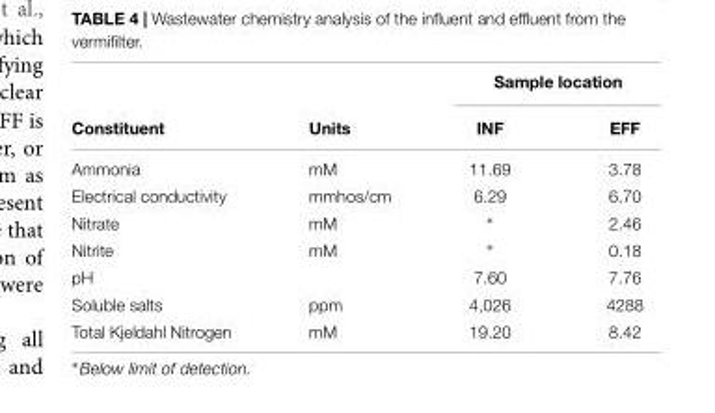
<table><thead><tr><td rowspan="2">Constituent</td><td rowspan="2">Units</td><td colspan="2">Sample location</td></tr><tr><td>INF</td><td>EFF</td></tr></thead><tbody><tr><td>Ammonia</td><td>mM</td><td>11.69</td><td>3.78</td></tr><tr><td>Electrical conductivity</td><td>mmhos/cm</td><td>6.29</td><td>6.70</td></tr><tr><td>Nitrate</td><td>mM</td><td>∗</td><td>2.46</td></tr><tr><td>Nitrite</td><td>mM</td><td>∗</td><td>0.18</td></tr><tr><td>pH</td><td></td><td>7.60</td><td>7.76</td></tr><tr><td>Soluble salts</td><td>ppm</td><td>4,026</td><td>4288</td></tr><tr><td>Total Kjeldahl Nitrogen</td><td>mM</td><td>19.20</td><td>8.42</td></tr></tbody></table>